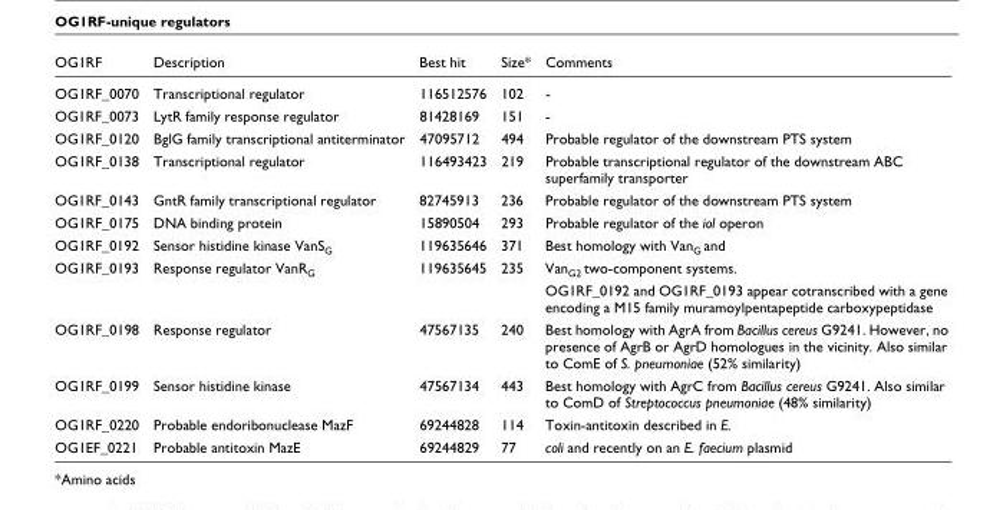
<table><thead><tr><td>OG1RF</td><td>Description</td><td>Best hit</td><td>Size*</td><td>Comments</td></tr></thead><tbody><tr><td>OG1RF_0070</td><td>Transcriptional regulator</td><td>116512576</td><td>102</td><td>-</td></tr><tr><td>OG1RF_0073</td><td>LytR family response regulator</td><td>81428169</td><td>151</td><td>-</td></tr><tr><td>OG1RF_0120</td><td>BglG family transcriptional antiterminator</td><td>47095712</td><td>494</td><td>Probable regulator of the downstream PTS system</td></tr><tr><td>OG1RF_0138</td><td>Transcriptional regulator</td><td>116493423</td><td>219</td><td>Probable transcriptional regulator of the downstream ABC superfamily transporter</td></tr><tr><td>OG1RF_0143</td><td>GntR family transcriptional regulator</td><td>82745913</td><td>236</td><td>Probable regulator of the downstream PTS system</td></tr><tr><td>OG1RF_0175</td><td>DNA binding protein</td><td>15890504</td><td>293</td><td>Probable regulator of the iol operon</td></tr><tr><td>OG1RF_0192</td><td>Sensor histidine kinase VanS<sub>G</sub></td><td>119635646</td><td>371</td><td>Best homology with Van<sub>G</sub> and</td></tr><tr><td rowspan="2">OG1RF_0193</td><td>Response regulator VanR<sub>G</sub></td><td>119635645</td><td>235</td><td>Van<sub>G2</sub> two-component systems.</td></tr><tr><td></td><td></td><td></td><td>OG1RF_0192 and OG1RF_0193 appear cotranscribed with a gene encoding a M15 family muramoylpentapeptide carboxypeptidase</td></tr><tr><td>OG1RF_0198</td><td>Response regulator</td><td>47567135</td><td>240</td><td>Best homology with AgrA from Bacillus cereus G9241. However, no presence of AgrB or AgrD homologues in the vicinity. Also similar to ComE of S. pneumoniae (52% similarity)</td></tr><tr><td>OG1RF_0199</td><td>Sensor histidine kinase</td><td>47567134</td><td>443</td><td>Best homology with AgrC from Bacillus cereus G9241. Also similar to ComD of Streptococcus pneumoniae (48% similarity)</td></tr><tr><td>OG1RF_0220</td><td>Probable endoribonuclease MazF</td><td>69244828</td><td>114</td><td>Toxin-antitoxin described in E.</td></tr><tr><td>OG1EF_0221</td><td>Probable antitoxin MazE</td><td>69244829</td><td>77</td><td>coli and recently on an E. faecium plasmid</td></tr></tbody></table>